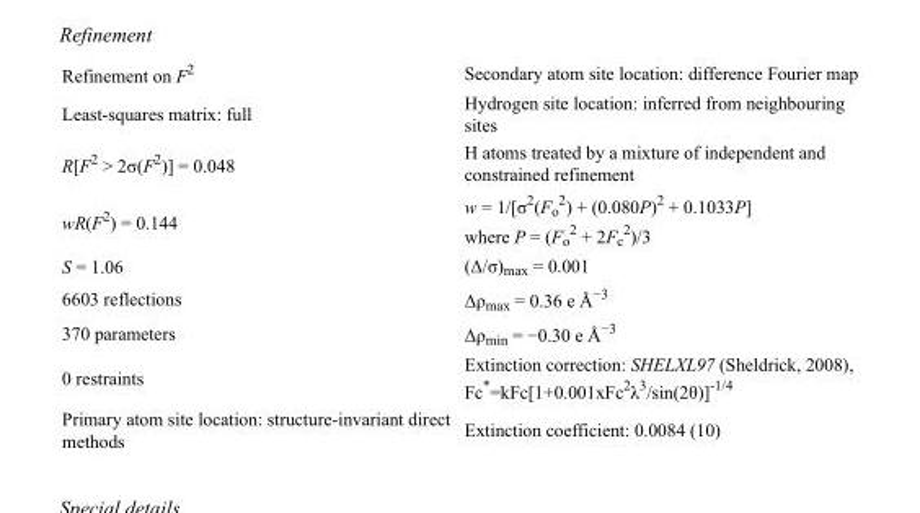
<table><tbody><tr><td>Refinement on F<sup>2</sup></td><td>Secondary atom site location: difference Fourier map</td></tr><tr><td>Least-squares matrix: full</td><td>Hydrogen site location: inferred from neighbouring sites</td></tr><tr><td>R[F<sup>2</sup> &gt; 2σ(F<sup>2</sup>)] = 0.048</td><td>H atoms treated by a mixture of independent and constrained refinement</td></tr><tr><td>wR(F<sup>2</sup>) = 0.144</td><td>w = 1/[σ<sup>2</sup>(F<sub>o</sub> <sup>2</sup>) + (0.080P)<sup>2</sup> + 0.1033P] where P = (F<sub>o</sub> <sup>2</sup> + 2F<sub>c</sub> <sup>2</sup>)/3</td></tr><tr><td>S = 1.06</td><td>(Δ/σ)<sub>max</sub> = 0.001</td></tr><tr><td>6603 reflections</td><td>Δρ<sub>max</sub> = 0.36 e Å<sup>−3</sup></td></tr><tr><td>370 parameters</td><td>Δρ<sub>min</sub> = −0.30 e Å<sup>−3</sup></td></tr><tr><td>0 restraints</td><td>Extinction correction: SHELXL97 (Sheldrick, 2008), Fc*=kFc[1+0.001xFc<sup>2</sup>λ<sup>3</sup>/sin(2θ)]<sup>-1/4</sup></td></tr><tr><td>Primary atom site location: structure-invariant direct methods</td><td>Extinction coefficient: 0.0084 (10)</td></tr></tbody></table>